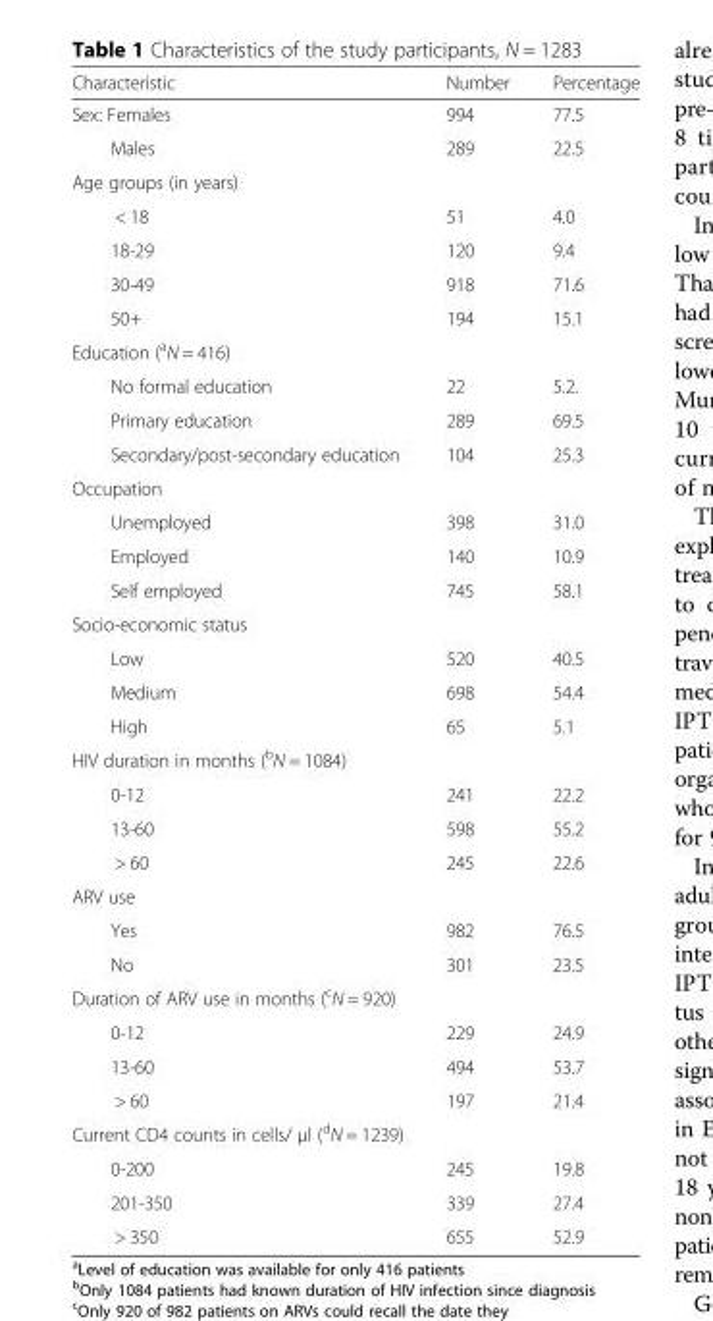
<table><thead><tr><td>Characteristic</td><td>Number</td><td>Percentage</td></tr></thead><tbody><tr><td>Sex: Females</td><td>994</td><td>77.5</td></tr><tr><td>Males</td><td>289</td><td>22.5</td></tr><tr><td colspan="3">Age groups (in years)</td></tr><tr><td>&lt; 18</td><td>51</td><td>4.0</td></tr><tr><td>18-29</td><td>120</td><td>9.4</td></tr><tr><td>30-49</td><td>918</td><td>71.6</td></tr><tr><td>50+</td><td>194</td><td>15.1</td></tr><tr><td colspan="3">Education (<sup>a</sup>N = 416)</td></tr><tr><td>No formal education</td><td>22</td><td>5.2.</td></tr><tr><td>Primary education</td><td>289</td><td>69.5</td></tr><tr><td>Secondary/post-secondary education</td><td>104</td><td>25.3</td></tr><tr><td colspan="3">Occupation</td></tr><tr><td>Unemployed</td><td>398</td><td>31.0</td></tr><tr><td>Employed</td><td>140</td><td>10.9</td></tr><tr><td>Self employed</td><td>745</td><td>58.1</td></tr><tr><td colspan="3">Socio-economic status</td></tr><tr><td>Low</td><td>520</td><td>40.5</td></tr><tr><td>Medium</td><td>698</td><td>54.4</td></tr><tr><td>High</td><td>65</td><td>5.1</td></tr><tr><td colspan="3">HIV duration in months (<sup>b</sup>N = 1084)</td></tr><tr><td>0-12</td><td>241</td><td>22.2</td></tr><tr><td>13-60</td><td>598</td><td>55.2</td></tr><tr><td>&gt; 60</td><td>245</td><td>22.6</td></tr><tr><td colspan="3">ARV use</td></tr><tr><td>Yes</td><td>982</td><td>76.5</td></tr><tr><td>No</td><td>301</td><td>23.5</td></tr><tr><td colspan="3">Duration of ARV use in months (<sup>c</sup>N = 920)</td></tr><tr><td>0-12</td><td>229</td><td>24.9</td></tr><tr><td>13-60</td><td>494</td><td>53.7</td></tr><tr><td>&gt; 60</td><td>197</td><td>21.4</td></tr><tr><td colspan="3">Current CD4 counts in cells/ μl (<sup>d</sup>N = 1239)</td></tr><tr><td>0-200</td><td>245</td><td>19.8</td></tr><tr><td>201-350</td><td>339</td><td>27.4</td></tr><tr><td>&gt; 350</td><td>655</td><td>52.9</td></tr></tbody></table>